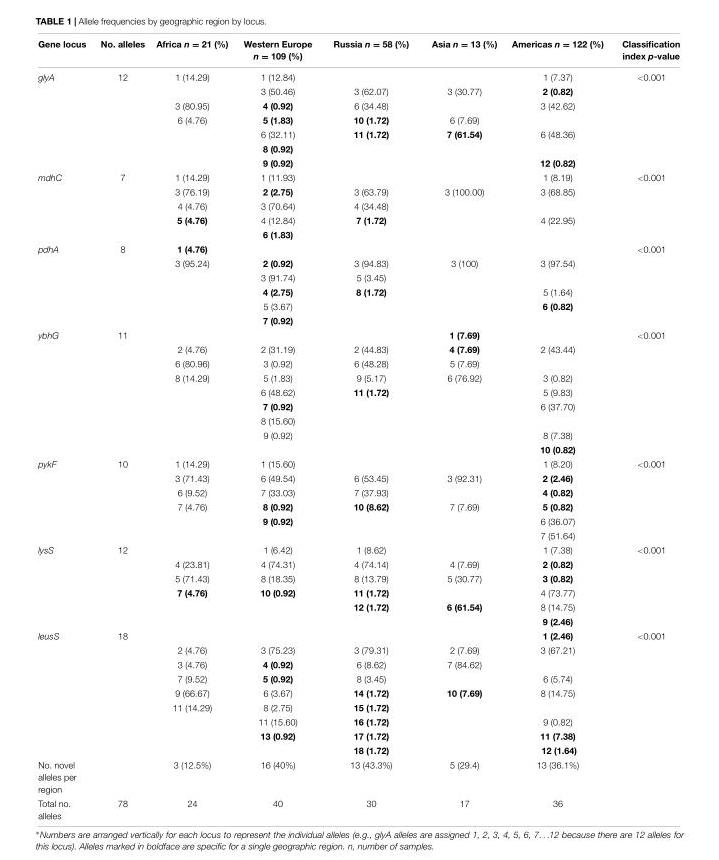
<table><thead><tr><td>Gene locus</td><td>No. alleles</td><td>Africa n = 21 (%)</td><td>Western Europe n = 109 (%)</td><td>Russia n = 58 (%)</td><td>Asia n = 13 (%)</td><td>Americas n = 122 (%)</td><td>Classification index p-value</td></tr></thead><tbody><tr><td rowspan="7">glyA</td><td>12</td><td>1 (14.29)</td><td>1 (12.84)</td><td></td><td></td><td>1 (7.37)</td><td>&lt;0.001</td></tr><tr><td></td><td></td><td>3 (50.46)</td><td>3 (62.07)</td><td>3 (30.77)</td><td>2 (0.82)</td><td></td></tr><tr><td></td><td>3 (80.95)</td><td>4 (0.92)</td><td>6 (34.48)</td><td></td><td>3 (42.62)</td><td></td></tr><tr><td></td><td>6 (4.76)</td><td>5 (1.83)</td><td>10 (1.72)</td><td>6 (7.69)</td><td></td><td></td></tr><tr><td></td><td></td><td>6 (32.11)</td><td>11 (1.72)</td><td>7 (61.54)</td><td>6 (48.36)</td><td></td></tr><tr><td></td><td></td><td>8 (0.92)</td><td></td><td></td><td></td><td></td></tr><tr><td></td><td></td><td>9 (0.92)</td><td></td><td></td><td>12 (0.82)</td><td></td></tr><tr><td rowspan="5">mdhC</td><td>7</td><td>1 (14.29)</td><td>1 (11.93)</td><td></td><td></td><td>1 (8.19)</td><td>&lt;0.001</td></tr><tr><td></td><td>3 (76.19)</td><td>2 (2.75)</td><td>3 (63.79)</td><td>3 (100.00)</td><td>3 (68.85)</td><td></td></tr><tr><td></td><td>4 (4.76)</td><td>3 (70.64)</td><td>4 (34.48)</td><td></td><td></td><td></td></tr><tr><td></td><td>5 (4.76)</td><td>4 (12.84)</td><td>7 (1.72)</td><td></td><td>4 (22.95)</td><td></td></tr><tr><td></td><td></td><td>6 (1.83)</td><td></td><td></td><td></td><td></td></tr><tr><td rowspan="6">pdhA</td><td>8</td><td>1 (4.76)</td><td></td><td></td><td></td><td></td><td>&lt;0.001</td></tr><tr><td></td><td>3 (95.24)</td><td>2 (0.92)</td><td>3 (94.83)</td><td>3 (100)</td><td>3 (97.54)</td><td></td></tr><tr><td></td><td></td><td>3 (91.74)</td><td>5 (3.45)</td><td></td><td></td><td></td></tr><tr><td></td><td></td><td>4 (2.75)</td><td>8 (1.72)</td><td></td><td>5 (1.64)</td><td></td></tr><tr><td></td><td></td><td>5 (3.67)</td><td></td><td></td><td>6 (0.82)</td><td></td></tr><tr><td></td><td></td><td>7 (0.92)</td><td></td><td></td><td></td><td></td></tr><tr><td rowspan="9">ybhG</td><td>11</td><td></td><td></td><td></td><td>1 (7.69)</td><td></td><td>&lt;0.001</td></tr><tr><td></td><td>2 (4.76)</td><td>2 (31.19)</td><td>2 (44.83)</td><td>4 (7.69)</td><td>2 (43.44)</td><td></td></tr><tr><td></td><td>6 (80.96)</td><td>3 (0.92)</td><td>6 (48.28)</td><td>5 (7.69)</td><td></td><td></td></tr><tr><td></td><td>8 (14.29)</td><td>5 (1.83)</td><td>9 (5.17)</td><td>6 (76.92)</td><td>3 (0.82)</td><td></td></tr><tr><td></td><td></td><td>6 (48.62)</td><td>11 (1.72)</td><td></td><td>5 (9.83)</td><td></td></tr><tr><td></td><td></td><td>7 (0.92)</td><td></td><td></td><td>6 (37.70)</td><td></td></tr><tr><td></td><td></td><td>8 (15.60)</td><td></td><td></td><td></td><td></td></tr><tr><td></td><td></td><td>9 (0.92)</td><td></td><td></td><td>8 (7.38)</td><td></td></tr><tr><td></td><td></td><td></td><td></td><td></td><td>10 (0.82)</td><td></td></tr><tr><td rowspan="6">pykF</td><td>10</td><td>1 (14.29)</td><td>1 (15.60)</td><td></td><td></td><td>1 (8.20)</td><td>&lt;0.001</td></tr><tr><td></td><td>3 (71.43)</td><td>6 (49.54)</td><td>6 (53.45)</td><td>3 (92.31)</td><td>2 (2.46)</td><td></td></tr><tr><td></td><td>6 (9.52)</td><td>7 (33.03)</td><td>7 (37.93)</td><td></td><td>4 (0.82)</td><td></td></tr><tr><td></td><td>7 (4.76)</td><td>8 (0.92)</td><td>10 (8.62)</td><td>7 (7.69)</td><td>5 (0.82)</td><td></td></tr><tr><td></td><td></td><td>9 (0.92)</td><td></td><td></td><td>6 (36.07)</td><td></td></tr><tr><td></td><td></td><td></td><td></td><td></td><td>7 (51.64)</td><td></td></tr><tr><td rowspan="6">lysS</td><td>12</td><td></td><td>1 (6.42)</td><td>1 (8.62)</td><td></td><td>1 (7.38)</td><td>&lt;0.001</td></tr><tr><td></td><td>4 (23.81)</td><td>4 (74.31)</td><td>4 (74.14)</td><td>4 (7.69)</td><td>2 (0.82)</td><td></td></tr><tr><td></td><td>5 (71.43)</td><td>8 (18.35)</td><td>8 (13.79)</td><td>5 (30.77)</td><td>3 (0.82)</td><td></td></tr><tr><td></td><td>7 (4.76)</td><td>10 (0.92)</td><td>11 (1.72)</td><td></td><td>4 (73.77)</td><td></td></tr><tr><td></td><td></td><td></td><td>12 (1.72)</td><td>6 (61.54)</td><td>8 (14.75)</td><td></td></tr><tr><td></td><td></td><td></td><td></td><td></td><td>9 (2.46)</td><td></td></tr><tr><td rowspan="9">leusS</td><td>18</td><td></td><td></td><td></td><td></td><td>1 (2.46)</td><td>&lt;0.001</td></tr><tr><td></td><td>2 (4.76)</td><td>3 (75.23)</td><td>3 (79.31)</td><td>2 (7.69)</td><td>3 (67.21)</td><td></td></tr><tr><td></td><td>3 (4.76)</td><td>4 (0.92)</td><td>6 (8.62)</td><td>7 (84.62)</td><td></td><td></td></tr><tr><td></td><td>7 (9.52)</td><td>5 (0.92)</td><td>8 (3.45)</td><td></td><td>6 (5.74)</td><td></td></tr><tr><td></td><td>9 (66.67)</td><td>6 (3.67)</td><td>14 (1.72)</td><td>10 (7.69)</td><td>8 (14.75)</td><td></td></tr><tr><td></td><td>11 (14.29)</td><td>8 (2.75)</td><td>15 (1.72)</td><td></td><td></td><td></td></tr><tr><td></td><td></td><td>11 (15.60)</td><td>16 (1.72)</td><td></td><td>9 (0.82)</td><td></td></tr><tr><td></td><td></td><td>13 (0.92)</td><td>17 (1.72)</td><td></td><td>11 (7.38)</td><td></td></tr><tr><td></td><td></td><td></td><td>18 (1.72)</td><td></td><td>12 (1.64)</td><td></td></tr><tr><td>No. novel alleles per region</td><td></td><td>3 (12.5%)</td><td>16 (40%)</td><td>13 (43.3%)</td><td>5 (29.4)</td><td>13 (36.1%)</td><td></td></tr><tr><td>Total no. alleles</td><td>78</td><td>24</td><td>40</td><td>30</td><td>17</td><td>36</td><td></td></tr></tbody></table>